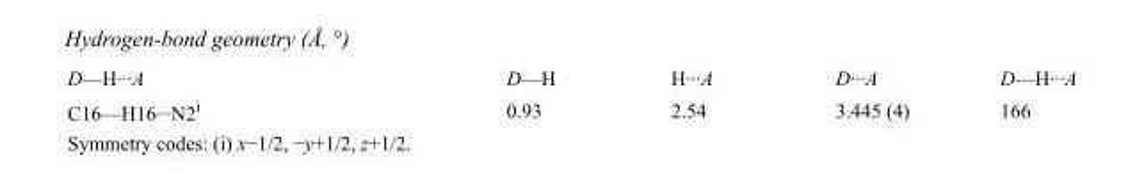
<table><tbody><tr><td>D—H···A</td><td>D—H</td><td>H···A</td><td>D···A</td><td>D—H···A</td></tr><tr><td>C16—H16···N2<sup>i</sup></td><td>0.93</td><td>2.54</td><td>3.445 (4)</td><td>166</td></tr></tbody></table>